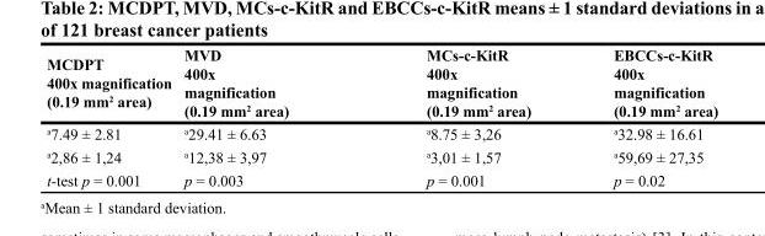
<table><thead><tr><td>MCDPT 400x magnification (0.19 mm<sup>2</sup> area)</td><td>MVD 400x magnification (0.19 mm<sup>2</sup> area)</td><td>MCs-c-KitR 400x magnification (0.19 mm<sup>2</sup> area)</td><td>EBCCs-c-KitR 400x magnification (0.19 mm<sup>2</sup> area)</td></tr></thead><tbody><tr><td><sup>a</sup>7.49 ± 2.81</td><td><sup>a</sup>29.41 ± 6.63</td><td><sup>a</sup>8.75 ± 3,26</td><td><sup>a</sup>32.98 ± 16.61</td></tr><tr><td><sup>a</sup>2,86 ± 1,24</td><td><sup>a</sup>12,38 ± 3,97</td><td><sup>a</sup>3,01 ± 1,57</td><td><sup>a</sup>59,69 ± 27,35</td></tr><tr><td>t-test p = 0.001</td><td>p = 0.003</td><td>p = 0.001</td><td>p = 0.02</td></tr></tbody></table>